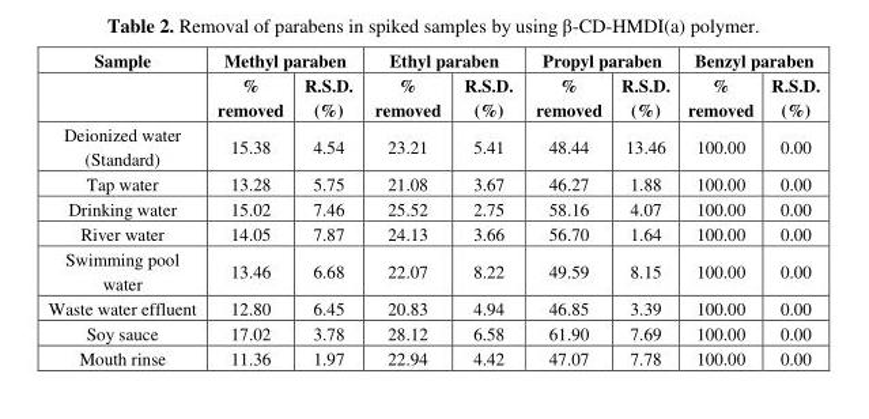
<table><thead><tr><td rowspan="2">Sample</td><td colspan="2">Methyl paraben</td><td colspan="2">Ethyl paraben</td><td colspan="2">Propyl paraben</td><td colspan="2">Benzyl paraben</td></tr><tr><td>% removed</td><td>R.S.D. (%)</td><td>% removed</td><td>R.S.D. (%)</td><td>% removed</td><td>R.S.D. (%)</td><td>% removed</td><td>R.S.D. (%)</td></tr></thead><tbody><tr><td>Deionized water (Standard)</td><td>15.38</td><td>4.54</td><td>23.21</td><td>5.41</td><td>48.44</td><td>13.46</td><td>100.00</td><td>0.00</td></tr><tr><td>Tap water</td><td>13.28</td><td>5.75</td><td>21.08</td><td>3.67</td><td>46.27</td><td>1.88</td><td>100.00</td><td>0.00</td></tr><tr><td>Drinking water</td><td>15.02</td><td>7.46</td><td>25.52</td><td>2.75</td><td>58.16</td><td>4.07</td><td>100.00</td><td>0.00</td></tr><tr><td>River water</td><td>14.05</td><td>7.87</td><td>24.13</td><td>3.66</td><td>56.70</td><td>1.64</td><td>100.00</td><td>0.00</td></tr><tr><td>Swimming pool water</td><td>13.46</td><td>6.68</td><td>22.07</td><td>8.22</td><td>49.59</td><td>8.15</td><td>100.00</td><td>0.00</td></tr><tr><td>Waste water effluent</td><td>12.80</td><td>6.45</td><td>20.83</td><td>4.94</td><td>46.85</td><td>3.39</td><td>100.00</td><td>0.00</td></tr><tr><td>Soy sauce</td><td>17.02</td><td>3.78</td><td>28.12</td><td>6.58</td><td>61.90</td><td>7.69</td><td>100.00</td><td>0.00</td></tr><tr><td>Mouth rinse</td><td>11.36</td><td>1.97</td><td>22.94</td><td>4.42</td><td>47.07</td><td>7.78</td><td>100.00</td><td>0.00</td></tr></tbody></table>